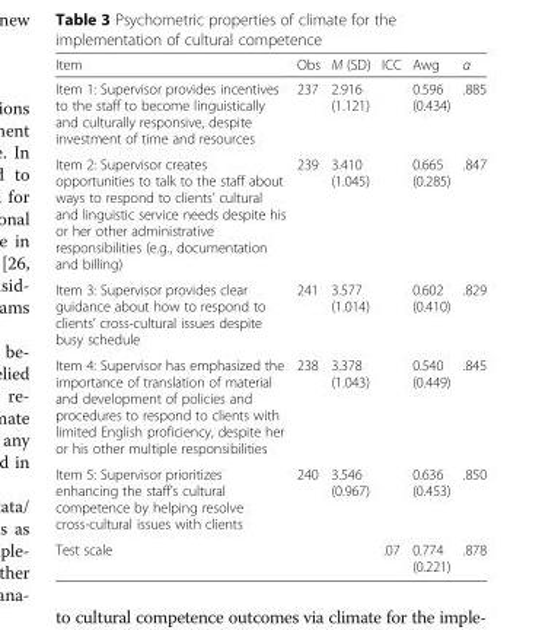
<table><thead><tr><td>Item</td><td>Obs</td><td>M (SD)</td><td>ICC</td><td>Awg</td><td>α</td></tr></thead><tbody><tr><td>Item 1: Supervisor provides incentives to the staff to become linguistically and culturally responsive, despite investment of time and resources</td><td>237</td><td>2.916 (1.121)</td><td></td><td>0.596 (0.434)</td><td>.885</td></tr><tr><td>Item 2: Supervisor creates opportunities to talk to the staff about ways to respond to clients’ cultural and linguistic service needs despite his or her other administrative responsibilities (e.g., documentation and billing)</td><td>239</td><td>3.410 (1.045)</td><td></td><td>0.665 (0.285)</td><td>.847</td></tr><tr><td>Item 3: Supervisor provides clear guidance about how to respond to clients’ cross-cultural issues despite busy schedule</td><td>241</td><td>3.577 (1.014)</td><td></td><td>0.602 (0.410)</td><td>.829</td></tr><tr><td>Item 4: Supervisor has emphasized the importance of translation of material and development of policies and procedures to respond to clients with limited English proficiency, despite her or his other multiple responsibilities</td><td>238</td><td>3.378 (1.043)</td><td></td><td>0.540 (0.449)</td><td>.845</td></tr><tr><td>Item 5: Supervisor prioritizes enhancing the staff’s cultural competence by helping resolve cross-cultural issues with clients</td><td>240</td><td>3.546 (0.967)</td><td></td><td>0.636 (0.453)</td><td>.850</td></tr><tr><td>Test scale</td><td></td><td></td><td>.07</td><td>0.774 (0.221)</td><td>.878</td></tr></tbody></table>